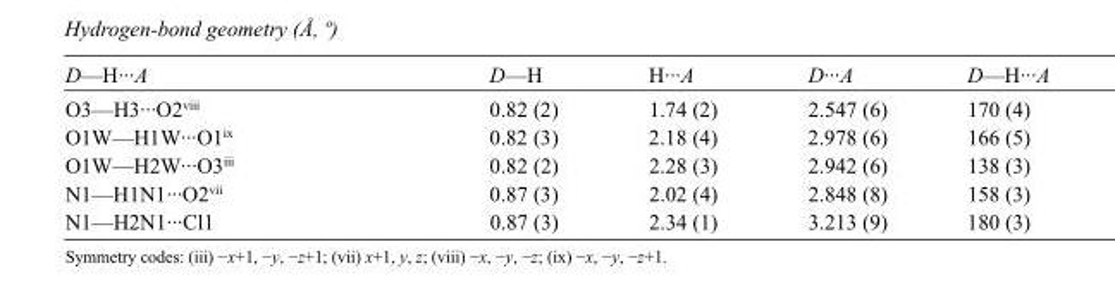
<table><tbody><tr><td>D—H···A</td><td>D—H</td><td>H···A</td><td>D···A</td><td>D—H···A</td></tr><tr><td>O3—H3···O2<sup>viii</sup></td><td>0.82 (2)</td><td>1.74 (2)</td><td>2.547 (6)</td><td>170 (4)</td></tr><tr><td>O1W—H1W···O1<sup>ix</sup></td><td>0.82 (3)</td><td>2.18 (4)</td><td>2.978 (6)</td><td>166 (5)</td></tr><tr><td>O1W—H2W···O3<sup>iii</sup></td><td>0.82 (2)</td><td>2.28 (3)</td><td>2.942 (6)</td><td>138 (3)</td></tr><tr><td>N1—H1N1···O2<sup>vii</sup></td><td>0.87 (3)</td><td>2.02 (4)</td><td>2.848 (8)</td><td>158 (3)</td></tr><tr><td>N1—H2N1···Cl1</td><td>0.87 (3)</td><td>2.34 (1)</td><td>3.213 (9)</td><td>180 (3)</td></tr></tbody></table>